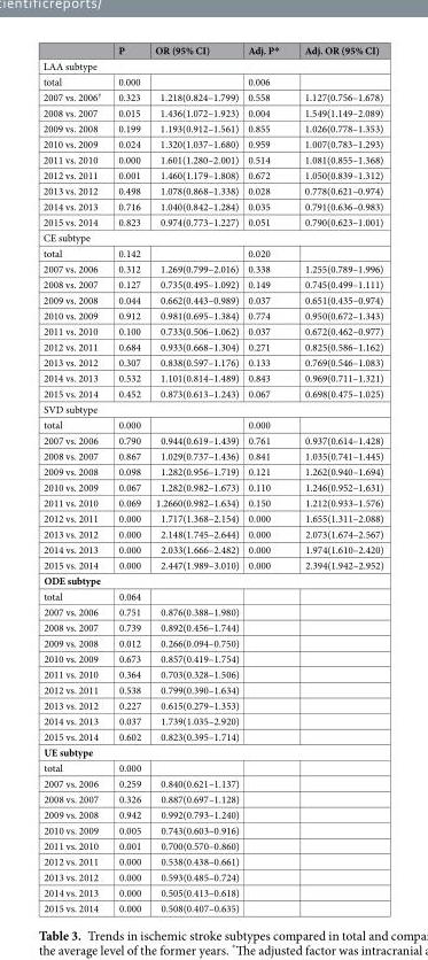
<table><thead><tr><td></td><td>P</td><td>OR (95% CI)</td><td>Adj. P*</td><td>Adj. OR (95% CI)</td></tr></thead><tbody><tr><td colspan="5">LAA subtype</td></tr><tr><td>total</td><td>0.000</td><td></td><td>0.006</td><td></td></tr><tr><td>2007 vs. 2006<sup>†</sup></td><td>0.323</td><td>1.218(0.824–1.799)</td><td>0.558</td><td>1.127(0.756–1.678)</td></tr><tr><td>2008 vs. 2007</td><td>0.015</td><td>1.436(1.072–1.923)</td><td>0.004</td><td>1.549(1.149–2.089)</td></tr><tr><td>2009 vs. 2008</td><td>0.199</td><td>1.193(0.912–1.561)</td><td>0.855</td><td>1.026(0.778–1.353)</td></tr><tr><td>2010 vs. 2009</td><td>0.024</td><td>1.320(1.037–1.680)</td><td>0.959</td><td>1.007(0.783–1.293)</td></tr><tr><td>2011 vs. 2010</td><td>0.000</td><td>1.601(1.280–2.001)</td><td>0.514</td><td>1.081(0.855–1.368)</td></tr><tr><td>2012 vs. 2011</td><td>0.001</td><td>1.460(1.179–1.808)</td><td>0.672</td><td>1.050(0.839–1.312)</td></tr><tr><td>2013 vs. 2012</td><td>0.498</td><td>1.078(0.868–1.338)</td><td>0.028</td><td>0.778(0.621–0.974)</td></tr><tr><td>2014 vs. 2013</td><td>0.716</td><td>1.040(0.842–1.284)</td><td>0.035</td><td>0.791(0.636–0.983)</td></tr><tr><td>2015 vs. 2014</td><td>0.823</td><td>0.974(0.773–1.227)</td><td>0.051</td><td>0.790(0.623–1.001)</td></tr><tr><td colspan="5">CE subtype</td></tr><tr><td>total</td><td>0.142</td><td></td><td>0.020</td><td></td></tr><tr><td>2007 vs. 2006</td><td>0.312</td><td>1.269(0.799–2.016)</td><td>0.338</td><td>1.255(0.789–1.996)</td></tr><tr><td>2008 vs. 2007</td><td>0.127</td><td>0.735(0.495–1.092)</td><td>0.149</td><td>0.745(0.499–1.111)</td></tr><tr><td>2009 vs. 2008</td><td>0.044</td><td>0.662(0.443–0.989)</td><td>0.037</td><td>0.651(0.435–0.974)</td></tr><tr><td>2010 vs. 2009</td><td>0.912</td><td>0.981(0.695–1.384)</td><td>0.774</td><td>0.950(0.672–1.343)</td></tr><tr><td>2011 vs. 2010</td><td>0.100</td><td>0.733(0.506–1.062)</td><td>0.037</td><td>0.672(0.462–0.977)</td></tr><tr><td>2012 vs. 2011</td><td>0.684</td><td>0.933(0.668–1.304)</td><td>0.271</td><td>0.825(0.586–1.162)</td></tr><tr><td>2013 vs. 2012</td><td>0.307</td><td>0.838(0.597–1.176)</td><td>0.133</td><td>0.769(0.546–1.083)</td></tr><tr><td>2014 vs. 2013</td><td>0.532</td><td>1.101(0.814–1.489)</td><td>0.843</td><td>0.969(0.711–1.321)</td></tr><tr><td>2015 vs. 2014</td><td>0.452</td><td>0.873(0.613–1.243)</td><td>0.067</td><td>0.698(0.475–1.025)</td></tr><tr><td colspan="5">SVD subtype</td></tr><tr><td>total</td><td>0.000</td><td></td><td>0.000</td><td></td></tr><tr><td>2007 vs. 2006</td><td>0.790</td><td>0.944(0.619–1.439)</td><td>0.761</td><td>0.937(0.614–1.428)</td></tr><tr><td>2008 vs. 2007</td><td>0.867</td><td>1.029(0.737–1.436)</td><td>0.841</td><td>1.035(0.741–1.445)</td></tr><tr><td>2009 vs. 2008</td><td>0.098</td><td>1.282(0.956–1.719)</td><td>0.121</td><td>1.262(0.940–1.694)</td></tr><tr><td>2010 vs. 2009</td><td>0.067</td><td>1.282(0.982–1.673)</td><td>0.110</td><td>1.246(0.952–1.631)</td></tr><tr><td>2011 vs. 2010</td><td>0.069</td><td>1.2660(0.982–1.634)</td><td>0.150</td><td>1.212(0.933–1.576)</td></tr><tr><td>2012 vs. 2011</td><td>0.000</td><td>1.717(1.368–2.154)</td><td>0.000</td><td>1.655(1.311–2.088)</td></tr><tr><td>2013 vs. 2012</td><td>0.000</td><td>2.148(1.745–2.644)</td><td>0.000</td><td>2.073(1.674–2.567)</td></tr><tr><td>2014 vs. 2013</td><td>0.000</td><td>2.033(1.666–2.482)</td><td>0.000</td><td>1.974(1.610–2.420)</td></tr><tr><td>2015 vs. 2014</td><td>0.000</td><td>2.447(1.989–3.010)</td><td>0.000</td><td>2.394(1.942–2.952)</td></tr><tr><td colspan="5">ODE subtype</td></tr><tr><td>total</td><td>0.064</td><td></td><td></td><td></td></tr><tr><td>2007 vs. 2006</td><td>0.751</td><td>0.876(0.388–1.980)</td><td></td><td></td></tr><tr><td>2008 vs. 2007</td><td>0.739</td><td>0.892(0.456–1.744)</td><td></td><td></td></tr><tr><td>2009 vs. 2008</td><td>0.012</td><td>0.266(0.094–0.750)</td><td></td><td></td></tr><tr><td>2010 vs. 2009</td><td>0.673</td><td>0.857(0.419–1.754)</td><td></td><td></td></tr><tr><td>2011 vs. 2010</td><td>0.364</td><td>0.703(0.328–1.506)</td><td></td><td></td></tr><tr><td>2012 vs. 2011</td><td>0.538</td><td>0.799(0.390–1.634)</td><td></td><td></td></tr><tr><td>2013 vs. 2012</td><td>0.227</td><td>0.615(0.279–1.353)</td><td></td><td></td></tr><tr><td>2014 vs. 2013</td><td>0.037</td><td>1.739(1.035–2.920)</td><td></td><td></td></tr><tr><td>2015 vs. 2014</td><td>0.602</td><td>0.823(0.395–1.714)</td><td></td><td></td></tr><tr><td colspan="5">UE subtype</td></tr><tr><td>total</td><td>0.000</td><td></td><td></td><td></td></tr><tr><td>2007 vs. 2006</td><td>0.259</td><td>0.840(0.621–1.137)</td><td></td><td></td></tr><tr><td>2008 vs. 2007</td><td>0.326</td><td>0.887(0.697–1.128)</td><td></td><td></td></tr><tr><td>2009 vs. 2008</td><td>0.942</td><td>0.992(0.793–1.240)</td><td></td><td></td></tr><tr><td>2010 vs. 2009</td><td>0.005</td><td>0.743(0.603–0.916)</td><td></td><td></td></tr><tr><td>2011 vs. 2010</td><td>0.001</td><td>0.700(0.570–0.860)</td><td></td><td></td></tr><tr><td>2012 vs. 2011</td><td>0.000</td><td>0.538(0.438–0.661)</td><td></td><td></td></tr><tr><td>2013 vs. 2012</td><td>0.000</td><td>0.593(0.485–0.724)</td><td></td><td></td></tr><tr><td>2014 vs. 2013</td><td>0.000</td><td>0.505(0.413–0.618)</td><td></td><td></td></tr><tr><td>2015 vs. 2014</td><td>0.000</td><td>0.508(0.407–0.635)</td><td></td><td></td></tr></tbody></table>